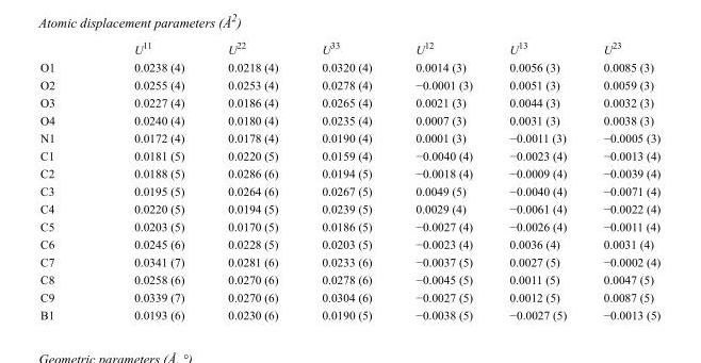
<table><thead><tr><td></td><td>U<sup>11</sup></td><td>U<sup>22</sup></td><td>U<sup>33</sup></td><td>U<sup>12</sup></td><td>U<sup>13</sup></td><td>U<sup>23</sup></td></tr></thead><tbody><tr><td>O1</td><td>0.0238 (4)</td><td>0.0218 (4)</td><td>0.0320 (4)</td><td>0.0014 (3)</td><td>0.0056 (3)</td><td>0.0085 (3)</td></tr><tr><td>O2</td><td>0.0255 (4)</td><td>0.0253 (4)</td><td>0.0278 (4)</td><td>−0.0001 (3)</td><td>0.0051 (3)</td><td>0.0059 (3)</td></tr><tr><td>O3</td><td>0.0227 (4)</td><td>0.0186 (4)</td><td>0.0265 (4)</td><td>0.0021 (3)</td><td>0.0044 (3)</td><td>0.0032 (3)</td></tr><tr><td>O4</td><td>0.0240 (4)</td><td>0.0180 (4)</td><td>0.0235 (4)</td><td>0.0007 (3)</td><td>0.0031 (3)</td><td>0.0038 (3)</td></tr><tr><td>N1</td><td>0.0172 (4)</td><td>0.0178 (4)</td><td>0.0190 (4)</td><td>0.0001 (3)</td><td>−0.0011 (3)</td><td>−0.0005 (3)</td></tr><tr><td>C1</td><td>0.0181 (5)</td><td>0.0220 (5)</td><td>0.0159 (4)</td><td>−0.0040 (4)</td><td>−0.0023 (4)</td><td>−0.0013 (4)</td></tr><tr><td>C2</td><td>0.0188 (5)</td><td>0.0286 (6)</td><td>0.0194 (5)</td><td>−0.0018 (4)</td><td>−0.0009 (4)</td><td>−0.0039 (4)</td></tr><tr><td>C3</td><td>0.0195 (5)</td><td>0.0264 (6)</td><td>0.0267 (5)</td><td>0.0049 (5)</td><td>−0.0040 (4)</td><td>−0.0071 (4)</td></tr><tr><td>C4</td><td>0.0220 (5)</td><td>0.0194 (5)</td><td>0.0239 (5)</td><td>0.0029 (4)</td><td>−0.0061 (4)</td><td>−0.0022 (4)</td></tr><tr><td>C5</td><td>0.0203 (5)</td><td>0.0170 (5)</td><td>0.0186 (5)</td><td>−0.0027 (4)</td><td>−0.0026 (4)</td><td>−0.0011 (4)</td></tr><tr><td>C6</td><td>0.0245 (6)</td><td>0.0228 (5)</td><td>0.0203 (5)</td><td>−0.0023 (4)</td><td>0.0036 (4)</td><td>0.0031 (4)</td></tr><tr><td>C7</td><td>0.0341 (7)</td><td>0.0281 (6)</td><td>0.0233 (6)</td><td>−0.0037 (5)</td><td>0.0027 (5)</td><td>−0.0002 (4)</td></tr><tr><td>C8</td><td>0.0258 (6)</td><td>0.0270 (6)</td><td>0.0278 (6)</td><td>−0.0045 (5)</td><td>0.0011 (5)</td><td>0.0047 (5)</td></tr><tr><td>C9</td><td>0.0339 (7)</td><td>0.0270 (6)</td><td>0.0304 (6)</td><td>−0.0027 (5)</td><td>0.0012 (5)</td><td>0.0087 (5)</td></tr><tr><td>B1</td><td>0.0193 (6)</td><td>0.0230 (6)</td><td>0.0190 (5)</td><td>−0.0038 (5)</td><td>−0.0027 (5)</td><td>−0.0013 (5)</td></tr></tbody></table>